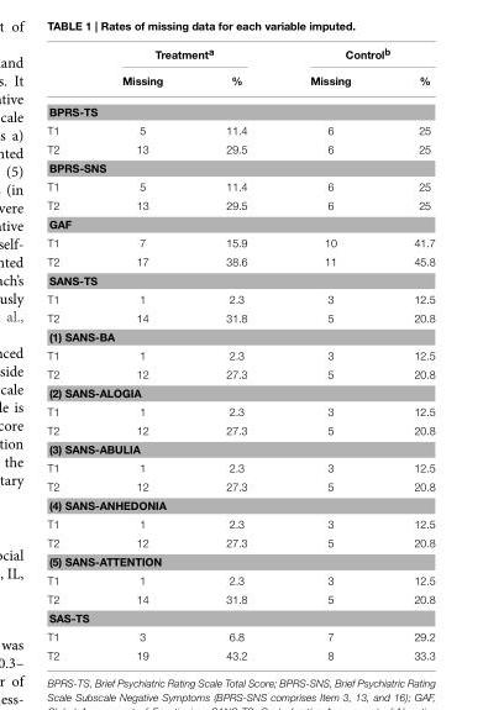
<table><thead><tr><td rowspan="2"></td><td colspan="2">Treatment<sup>a</sup></td><td colspan="2">Control<sup>b</sup></td></tr><tr><td>Missing</td><td>%</td><td>Missing</td><td>%</td></tr></thead><tbody><tr><td colspan="5">BPRS-TS</td></tr><tr><td>T1</td><td>5</td><td>11.4</td><td>6</td><td>25</td></tr><tr><td>T2</td><td>13</td><td>29.5</td><td>6</td><td>25</td></tr><tr><td colspan="5">BPRS-SNS</td></tr><tr><td>T1</td><td>5</td><td>11.4</td><td>6</td><td>25</td></tr><tr><td>T2</td><td>13</td><td>29.5</td><td>6</td><td>25</td></tr><tr><td colspan="5">GAF</td></tr><tr><td>T1</td><td>7</td><td>15.9</td><td>10</td><td>41.7</td></tr><tr><td>T2</td><td>17</td><td>38.6</td><td>11</td><td>45.8</td></tr><tr><td colspan="5">SANS-TS</td></tr><tr><td>T1</td><td>1</td><td>2.3</td><td>3</td><td>12.5</td></tr><tr><td>T2</td><td>14</td><td>31.8</td><td>5</td><td>20.8</td></tr><tr><td colspan="5">(1) SANS-BA</td></tr><tr><td>T1</td><td>1</td><td>2.3</td><td>3</td><td>12.5</td></tr><tr><td>T2</td><td>12</td><td>27.3</td><td>5</td><td>20.8</td></tr><tr><td colspan="5">(2) SANS-ALOGIA</td></tr><tr><td>T1</td><td>1</td><td>2.3</td><td>3</td><td>12.5</td></tr><tr><td>T2</td><td>12</td><td>27.3</td><td>5</td><td>20.8</td></tr><tr><td colspan="5">(3) SANS-ABULIA</td></tr><tr><td>T1</td><td>1</td><td>2.3</td><td>3</td><td>12.5</td></tr><tr><td>T2</td><td>12</td><td>27.3</td><td>5</td><td>20.8</td></tr><tr><td colspan="5">(4) SANS-ANHEDONIA</td></tr><tr><td>T1</td><td>1</td><td>2.3</td><td>3</td><td>12.5</td></tr><tr><td>T2</td><td>12</td><td>27.3</td><td>5</td><td>20.8</td></tr><tr><td colspan="5">(5) SANS-ATTENTION</td></tr><tr><td>T1</td><td>1</td><td>2.3</td><td>3</td><td>12.5</td></tr><tr><td>T2</td><td>14</td><td>31.8</td><td>5</td><td>20.8</td></tr><tr><td colspan="5">SAS-TS</td></tr><tr><td>T1</td><td>3</td><td>6.8</td><td>7</td><td>29.2</td></tr><tr><td>T2</td><td>19</td><td>43.2</td><td>8</td><td>33.3</td></tr></tbody></table>